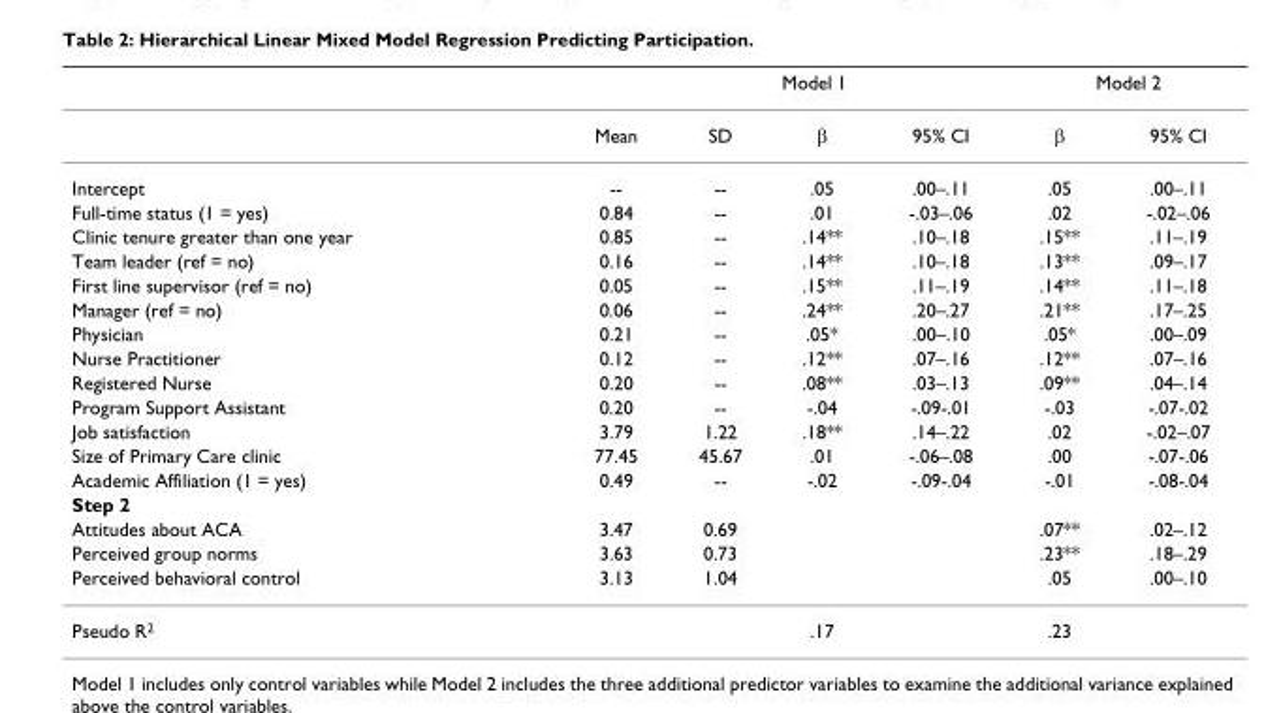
<table><thead><tr><td rowspan="2"></td><td rowspan="2">Mean</td><td rowspan="2">SD</td><td colspan="2">Model 1</td><td colspan="2">Model 2</td></tr><tr><td>β</td><td>95% CI</td><td>β</td><td>95% CI</td></tr></thead><tbody><tr><td>Intercept</td><td>--</td><td>--</td><td>.05</td><td>.00–.11</td><td>.05</td><td>.00–.11</td></tr><tr><td>Full-time status (1 = yes)</td><td>0.84</td><td>--</td><td>.01</td><td>-.03–.06</td><td>.02</td><td>-.02–.06</td></tr><tr><td>Clinic tenure greater than one year</td><td>0.85</td><td>--</td><td>.14**</td><td>.10–.18</td><td>.15**</td><td>.11–.19</td></tr><tr><td>Team leader (ref = no)</td><td>0.16</td><td>--</td><td>.14**</td><td>.10–.18</td><td>.13**</td><td>.09–.17</td></tr><tr><td>First line supervisor (ref = no)</td><td>0.05</td><td>--</td><td>.15**</td><td>.11–.19</td><td>.14**</td><td>.11–.18</td></tr><tr><td>Manager (ref = no)</td><td>0.06</td><td>--</td><td>.24**</td><td>.20–.27</td><td>.21**</td><td>.17–.25</td></tr><tr><td>Physician</td><td>0.21</td><td>--</td><td>.05*</td><td>.00–.10</td><td>.05*</td><td>.00–.09</td></tr><tr><td>Nurse Practitioner</td><td>0.12</td><td>--</td><td>.12**</td><td>.07–.16</td><td>.12**</td><td>.07–.16</td></tr><tr><td>Registered Nurse</td><td>0.20</td><td>--</td><td>.08**</td><td>.03–.13</td><td>.09**</td><td>.04–.14</td></tr><tr><td>Program Support Assistant</td><td>0.20</td><td>--</td><td>-.04</td><td>-.09-.01</td><td>-.03</td><td>-.07-.02</td></tr><tr><td>Job satisfaction</td><td>3.79</td><td>1.22</td><td>.18**</td><td>.14–.22</td><td>.02</td><td>-.02–.07</td></tr><tr><td>Size of Primary Care clinic</td><td>77.45</td><td>45.67</td><td>.01</td><td>-.06–.08</td><td>.00</td><td>-.07-.06</td></tr><tr><td>Academic Affiliation (1 = yes)</td><td>0.49</td><td>--</td><td>-.02</td><td>-.09-.04</td><td>-.01</td><td>-.08-.04</td></tr><tr><td colspan="7">Step 2</td></tr><tr><td>Attitudes about ACA</td><td>3.47</td><td>0.69</td><td></td><td></td><td>.07**</td><td>.02–.12</td></tr><tr><td>Perceived group norms</td><td>3.63</td><td>0.73</td><td></td><td></td><td>.23**</td><td>.18–.29</td></tr><tr><td>Perceived behavioral control</td><td>3.13</td><td>1.04</td><td></td><td></td><td>.05</td><td>.00–.10</td></tr><tr><td>Pseudo R<sup>2</sup></td><td></td><td></td><td>.17</td><td></td><td>.23</td><td></td></tr></tbody></table>